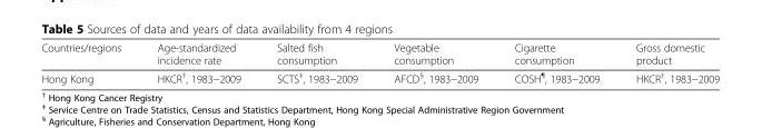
<table><thead><tr><td>Countries/regions</td><td>Age-standardized incidence rate</td><td>Salted fish consumption</td><td>Vegetable consumption</td><td>Cigarette consumption</td><td>Gross domestic product</td></tr></thead><tbody><tr><td>Hong Kong</td><td>HKCR<sup>†</sup>, 1983−2009</td><td>SCTS<sup>‡</sup>, 1983−2009</td><td>AFCD<sup>§</sup>, 1983−2009</td><td>COSH<sup>¶</sup>, 1983−2009</td><td>HKCR<sup>†</sup>, 1983−2009</td></tr></tbody></table>